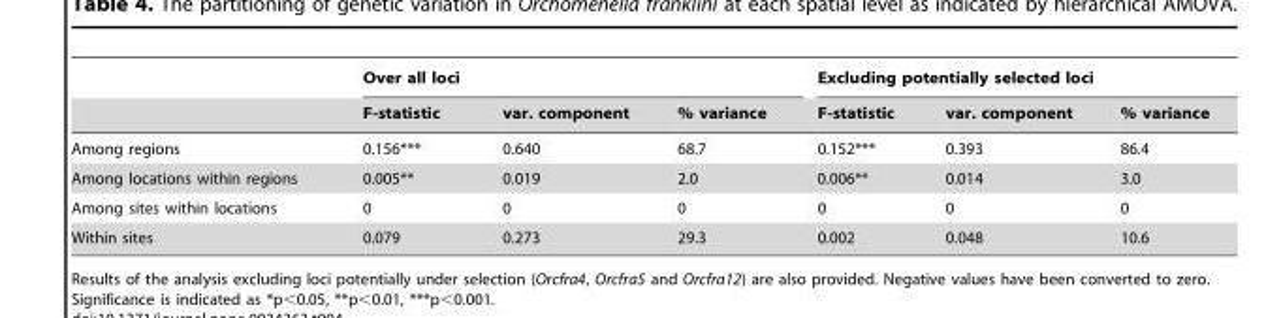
<table><thead><tr><td rowspan="2"></td><td colspan="3">Over all loci</td><td colspan="3">Excluding potentially selected loci</td></tr><tr><td>F-statistic</td><td>var. component</td><td>% variance</td><td>F-statistic</td><td>var. component</td><td>% variance</td></tr></thead><tbody><tr><td>Among regions</td><td>0.156***</td><td>0.640</td><td>68.7</td><td>0.152***</td><td>0.393</td><td>86.4</td></tr><tr><td>Among locations within regions</td><td>0.005**</td><td>0.019</td><td>2.0</td><td>0.006**</td><td>0.014</td><td>3.0</td></tr><tr><td>Among sites within locations</td><td>0</td><td>0</td><td>0</td><td>0</td><td>0</td><td>0</td></tr><tr><td>Within sites</td><td>0.079</td><td>0.273</td><td>29.3</td><td>0.002</td><td>0.048</td><td>10.6</td></tr></tbody></table>